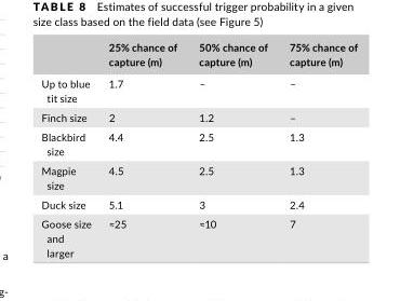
<table><thead><tr><td></td><td>25% chance of capture (m)</td><td>50% chance of capture (m)</td><td>75% chance of capture (m)</td></tr></thead><tbody><tr><td>Up to blue tit size</td><td>1.7</td><td>–</td><td>–</td></tr><tr><td>Finch size</td><td>2</td><td>1.2</td><td>–</td></tr><tr><td>Blackbird size</td><td>4.4</td><td>2.5</td><td>1.3</td></tr><tr><td>Magpie size</td><td>4.5</td><td>2.5</td><td>1.3</td></tr><tr><td>Duck size</td><td>5.1</td><td>3</td><td>2.4</td></tr><tr><td>Goose size and larger</td><td>≈25</td><td>≈10</td><td>7</td></tr></tbody></table>